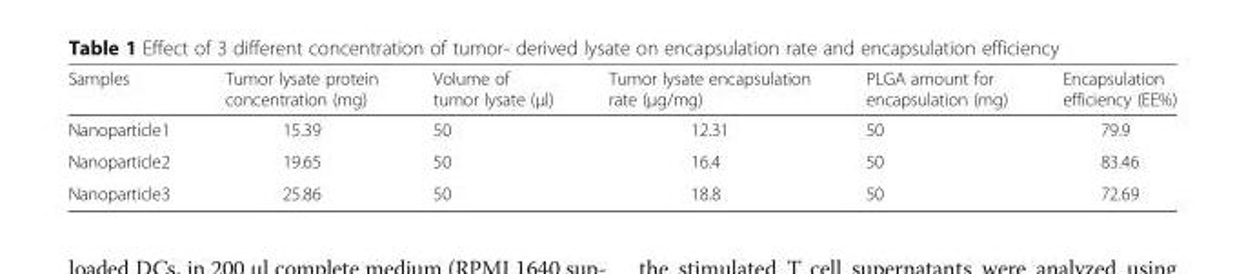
<table><thead><tr><td>Samples</td><td>Tumor lysate protein concentration (mg)</td><td>Volume of tumor lysate (μl)</td><td>Tumor lysate encapsulation rate (μg/mg)</td><td>PLGA amount for encapsulation (mg)</td><td>Encapsulation efficiency (EE%)</td></tr></thead><tbody><tr><td>Nanoparticle1</td><td>15.39</td><td>50</td><td>12.31</td><td>50</td><td>79.9</td></tr><tr><td>Nanoparticle2</td><td>19.65</td><td>50</td><td>16.4</td><td>50</td><td>83.46</td></tr><tr><td>Nanoparticle3</td><td>25.86</td><td>50</td><td>18.8</td><td>50</td><td>72.69</td></tr></tbody></table>